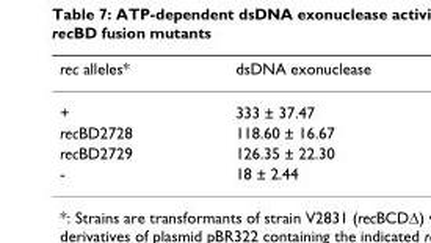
<table><thead><tr><td>rec alleles*</td><td>dsDNA exonuclease</td></tr></thead><tbody><tr><td>+</td><td>333 ± 37.47</td></tr><tr><td>recBD2728</td><td>118.60 ± 16.67</td></tr><tr><td>recBD2729</td><td>126.35 ± 22.30</td></tr><tr><td>-</td><td>18 ± 2.44</td></tr></tbody></table>